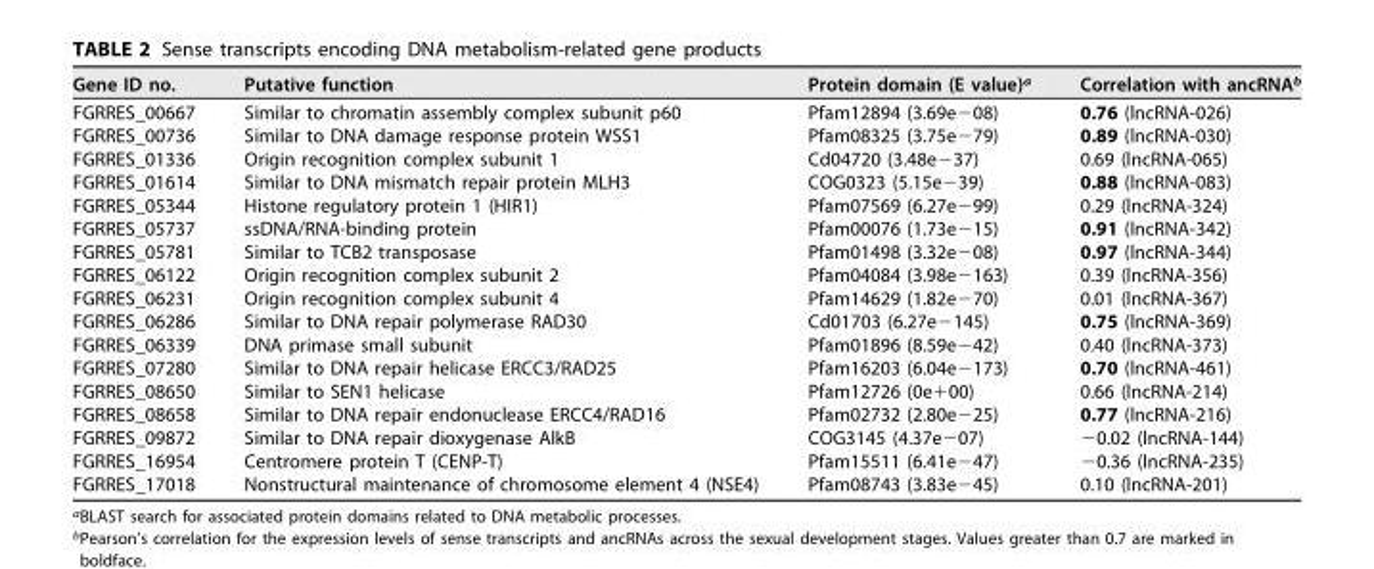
<table><thead><tr><td>Gene ID no.</td><td>Putative function</td><td>Protein domain (E value)<sup>a</sup></td><td>Correlation with ancRNA<sup>b</sup></td></tr></thead><tbody><tr><td>FGRRES_00667</td><td>Similar to chromatin assembly complex subunit p60</td><td>Pfam12894 (3.69e−08)</td><td>0.76 (lncRNA-026)</td></tr><tr><td>FGRRES_00736</td><td>Similar to DNA damage response protein WSS1</td><td>Pfam08325 (3.75e−79)</td><td>0.89 (lncRNA-030)</td></tr><tr><td>FGRRES_01336</td><td>Origin recognition complex subunit 1</td><td>Cd04720 (3.48e−37)</td><td>0.69 (lncRNA-065)</td></tr><tr><td>FGRRES_01614</td><td>Similar to DNA mismatch repair protein MLH3</td><td>COG0323 (5.15e−39)</td><td>0.88 (lncRNA-083)</td></tr><tr><td>FGRRES_05344</td><td>Histone regulatory protein 1 (HIR1)</td><td>Pfam07569 (6.27e−99)</td><td>0.29 (lncRNA-324)</td></tr><tr><td>FGRRES_05737</td><td>ssDNA/RNA-binding protein</td><td>Pfam00076 (1.73e−15)</td><td>0.91 (lncRNA-342)</td></tr><tr><td>FGRRES_05781</td><td>Similar to TCB2 transposase</td><td>Pfam01498 (3.32e−08)</td><td>0.97 (lncRNA-344)</td></tr><tr><td>FGRRES_06122</td><td>Origin recognition complex subunit 2</td><td>Pfam04084 (3.98e−163)</td><td>0.39 (lncRNA-356)</td></tr><tr><td>FGRRES_06231</td><td>Origin recognition complex subunit 4</td><td>Pfam14629 (1.82e−70)</td><td>0.01 (lncRNA-367)</td></tr><tr><td>FGRRES_06286</td><td>Similar to DNA repair polymerase RAD30</td><td>Cd01703 (6.27e−145)</td><td>0.75 (lncRNA-369)</td></tr><tr><td>FGRRES_06339</td><td>DNA primase small subunit</td><td>Pfam01896 (8.59e−42)</td><td>0.40 (lncRNA-373)</td></tr><tr><td>FGRRES_07280</td><td>Similar to DNA repair helicase ERCC3/RAD25</td><td>Pfam16203 (6.04e−173)</td><td>0.70 (lncRNA-461)</td></tr><tr><td>FGRRES_08650</td><td>Similar to SEN1 helicase</td><td>Pfam12726 (0e+00)</td><td>0.66 (lncRNA-214)</td></tr><tr><td>FGRRES_08658</td><td>Similar to DNA repair endonuclease ERCC4/RAD16</td><td>Pfam02732 (2.80e−25)</td><td>0.77 (lncRNA-216)</td></tr><tr><td>FGRRES_09872</td><td>Similar to DNA repair dioxygenase AlkB</td><td>COG3145 (4.37e−07)</td><td>−0.02 (lncRNA-144)</td></tr><tr><td>FGRRES_16954</td><td>Centromere protein T (CENP-T)</td><td>Pfam15511 (6.41e−47)</td><td>−0.36 (lncRNA-235)</td></tr><tr><td>FGRRES_17018</td><td>Nonstructural maintenance of chromosome element 4 (NSE4)</td><td>Pfam08743 (3.83e−45)</td><td>0.10 (lncRNA-201)</td></tr></tbody></table>